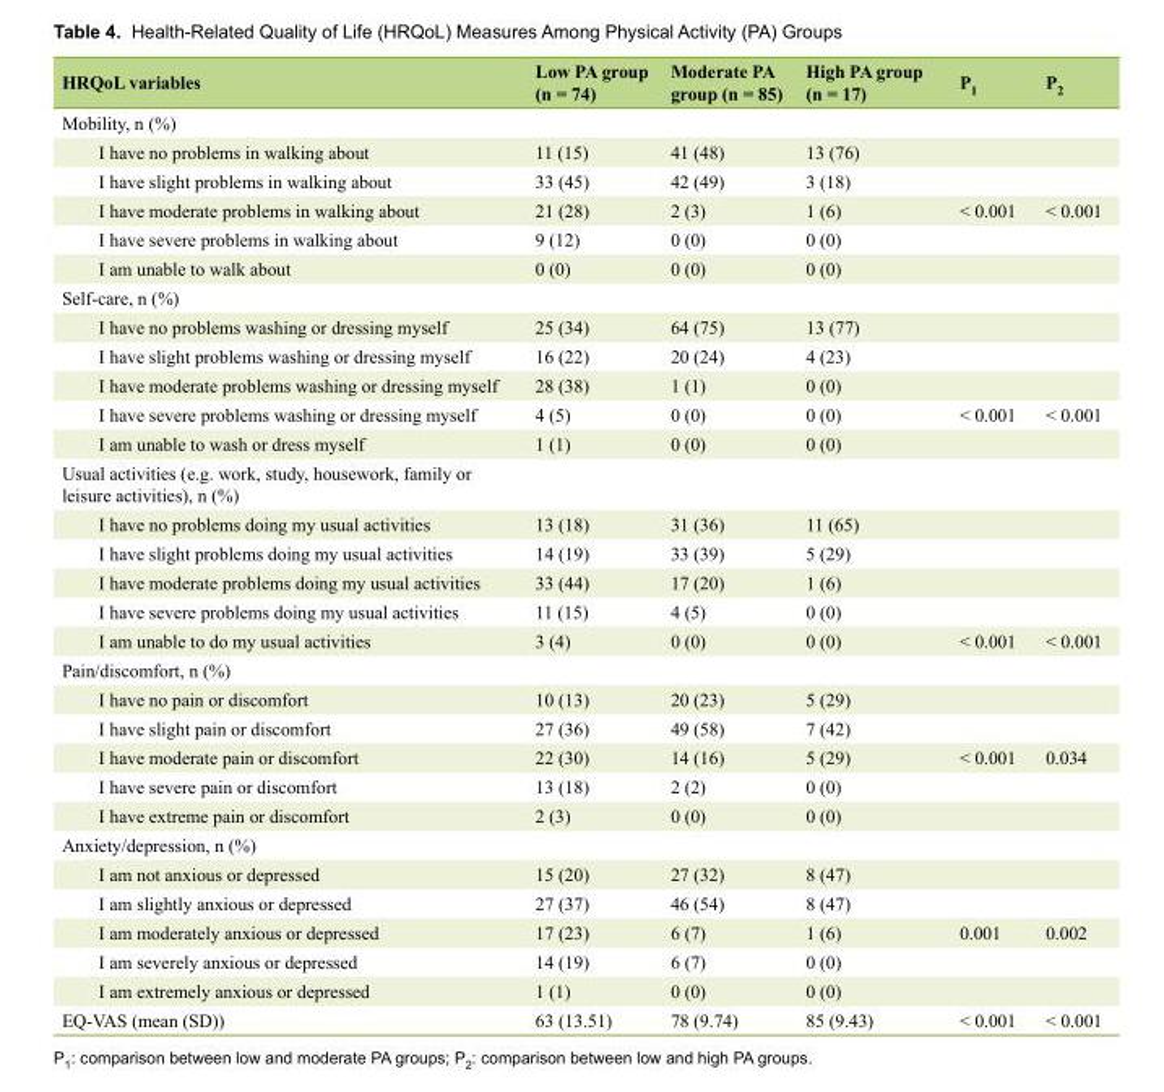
<table><thead><tr><td>HRQoL variables</td><td>Low PA group (n = 74)</td><td>Moderate PA group (n = 85)</td><td>High PA group (n = 17)</td><td>P<sub>1</sub></td><td>P<sub>2</sub></td></tr></thead><tbody><tr><td colspan="6">Mobility, n (%)</td></tr><tr><td>I have no problems in walking about</td><td>11 (15)</td><td>41 (48)</td><td>13 (76)</td><td></td><td></td></tr><tr><td>I have slight problems in walking about</td><td>33 (45)</td><td>42 (49)</td><td>3 (18)</td><td></td><td></td></tr><tr><td>I have moderate problems in walking about</td><td>21 (28)</td><td>2 (3)</td><td>1 (6)</td><td>&lt; 0.001</td><td>&lt; 0.001</td></tr><tr><td>I have severe problems in walking about</td><td>9 (12)</td><td>0 (0)</td><td>0 (0)</td><td></td><td></td></tr><tr><td>I am unable to walk about</td><td>0 (0)</td><td>0 (0)</td><td>0 (0)</td><td></td><td></td></tr><tr><td colspan="6">Self-care, n (%)</td></tr><tr><td>I have no problems washing or dressing myself</td><td>25 (34)</td><td>64 (75)</td><td>13 (77)</td><td></td><td></td></tr><tr><td>I have slight problems washing or dressing myself</td><td>16 (22)</td><td>20 (24)</td><td>4 (23)</td><td></td><td></td></tr><tr><td>I have moderate problems washing or dressing myself</td><td>28 (38)</td><td>1 (1)</td><td>0 (0)</td><td></td><td></td></tr><tr><td>I have severe problems washing or dressing myself</td><td>4 (5)</td><td>0 (0)</td><td>0 (0)</td><td>&lt; 0.001</td><td>&lt; 0.001</td></tr><tr><td>I am unable to wash or dress myself</td><td>1 (1)</td><td>0 (0)</td><td>0 (0)</td><td></td><td></td></tr><tr><td colspan="6">Usual activities (e.g. work, study, housework, family or leisure activities), n (%)</td></tr><tr><td>I have no problems doing my usual activities</td><td>13 (18)</td><td>31 (36)</td><td>11 (65)</td><td></td><td></td></tr><tr><td>I have slight problems doing my usual activities</td><td>14 (19)</td><td>33 (39)</td><td>5 (29)</td><td></td><td></td></tr><tr><td>I have moderate problems doing my usual activities</td><td>33 (44)</td><td>17 (20)</td><td>1 (6)</td><td></td><td></td></tr><tr><td>I have severe problems doing my usual activities</td><td>11 (15)</td><td>4 (5)</td><td>0 (0)</td><td></td><td></td></tr><tr><td>I am unable to do my usual activities</td><td>3 (4)</td><td>0 (0)</td><td>0 (0)</td><td>&lt; 0.001</td><td>&lt; 0.001</td></tr><tr><td colspan="6">Pain/discomfort, n (%)</td></tr><tr><td>I have no pain or discomfort</td><td>10 (13)</td><td>20 (23)</td><td>5 (29)</td><td></td><td></td></tr><tr><td>I have slight pain or discomfort</td><td>27 (36)</td><td>49 (58)</td><td>7 (42)</td><td></td><td></td></tr><tr><td>I have moderate pain or discomfort</td><td>22 (30)</td><td>14 (16)</td><td>5 (29)</td><td>&lt; 0.001</td><td>0.034</td></tr><tr><td>I have severe pain or discomfort</td><td>13 (18)</td><td>2 (2)</td><td>0 (0)</td><td></td><td></td></tr><tr><td>I have extreme pain or discomfort</td><td>2 (3)</td><td>0 (0)</td><td>0 (0)</td><td></td><td></td></tr><tr><td colspan="6">Anxiety/depression, n (%)</td></tr><tr><td>I am not anxious or depressed</td><td>15 (20)</td><td>27 (32)</td><td>8 (47)</td><td></td><td></td></tr><tr><td>I am slightly anxious or depressed</td><td>27 (37)</td><td>46 (54)</td><td>8 (47)</td><td></td><td></td></tr><tr><td>I am moderately anxious or depressed</td><td>17 (23)</td><td>6 (7)</td><td>1 (6)</td><td>0.001</td><td>0.002</td></tr><tr><td>I am severely anxious or depressed</td><td>14 (19)</td><td>6 (7)</td><td>0 (0)</td><td></td><td></td></tr><tr><td>I am extremely anxious or depressed</td><td>1 (1)</td><td>0 (0)</td><td>0 (0)</td><td></td><td></td></tr><tr><td>EQ-VAS (mean (SD))</td><td>63 (13.51)</td><td>78 (9.74)</td><td>85 (9.43)</td><td>&lt; 0.001</td><td>&lt; 0.001</td></tr></tbody></table>